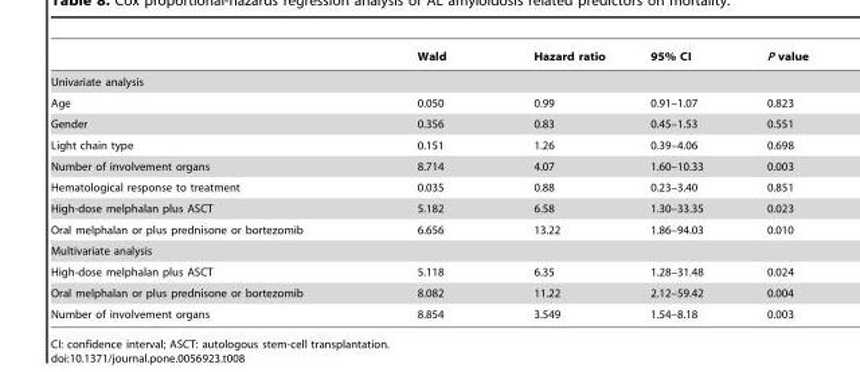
<table><thead><tr><td></td><td>Wald</td><td>Hazard ratio</td><td>95% CI</td><td>P value</td></tr></thead><tbody><tr><td colspan="5">Univariate analysis</td></tr><tr><td>Age</td><td>0.050</td><td>0.99</td><td>0.91–1.07</td><td>0.823</td></tr><tr><td>Gender</td><td>0.356</td><td>0.83</td><td>0.45–1.53</td><td>0.551</td></tr><tr><td>Light chain type</td><td>0.151</td><td>1.26</td><td>0.39–4.06</td><td>0.698</td></tr><tr><td>Number of involvement organs</td><td>8.714</td><td>4.07</td><td>1.60–10.33</td><td>0.003</td></tr><tr><td>Hematological response to treatment</td><td>0.035</td><td>0.88</td><td>0.23–3.40</td><td>0.851</td></tr><tr><td>High-dose melphalan plus ASCT</td><td>5.182</td><td>6.58</td><td>1.30–33.35</td><td>0.023</td></tr><tr><td>Oral melphalan or plus prednisone or bortezomib</td><td>6.656</td><td>13.22</td><td>1.86–94.03</td><td>0.010</td></tr><tr><td colspan="5">Multivariate analysis</td></tr><tr><td>High-dose melphalan plus ASCT</td><td>5.118</td><td>6.35</td><td>1.28–31.48</td><td>0.024</td></tr><tr><td>Oral melphalan or plus prednisone or bortezomib</td><td>8.082</td><td>11.22</td><td>2.12–59.42</td><td>0.004</td></tr><tr><td>Number of involvement organs</td><td>8.854</td><td>3.549</td><td>1.54–8.18</td><td>0.003</td></tr></tbody></table>